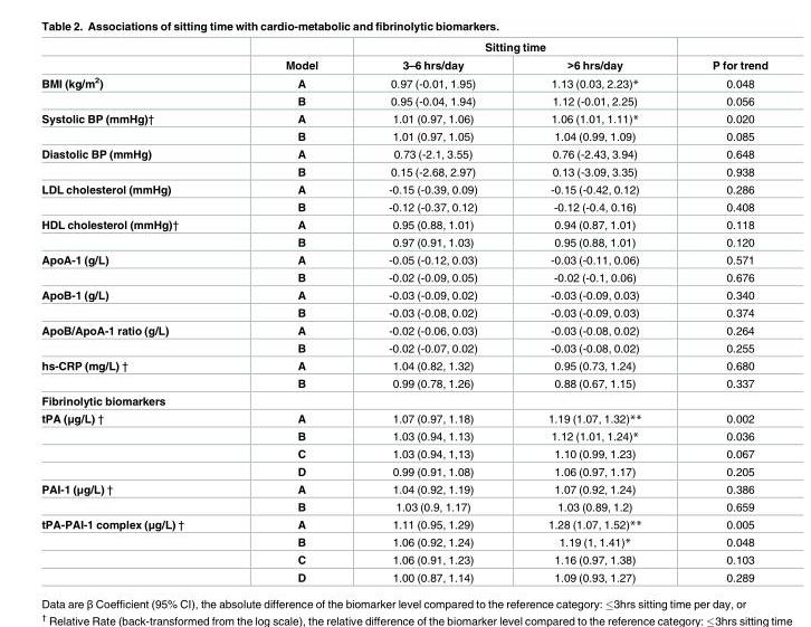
<table><thead><tr><td rowspan="2"></td><td rowspan="2">Model</td><td colspan="2">Sitting time</td><td rowspan="2">P for trend</td></tr><tr><td>3–6 hrs/day</td><td>&gt;6 hrs/day</td></tr></thead><tbody><tr><td rowspan="2">BMI (kg/m<sup>2</sup>)</td><td>A</td><td>0.97 (-0.01, 1.95)</td><td>1.13 (0.03, 2.23)*</td><td>0.048</td></tr><tr><td>B</td><td>0.95 (-0.04, 1.94)</td><td>1.12 (-0.01, 2.25)</td><td>0.056</td></tr><tr><td rowspan="2">Systolic BP (mmHg)†</td><td>A</td><td>1.01 (0.97, 1.06)</td><td>1.06 (1.01, 1.11)*</td><td>0.020</td></tr><tr><td>B</td><td>1.01 (0.97, 1.05)</td><td>1.04 (0.99, 1.09)</td><td>0.085</td></tr><tr><td rowspan="2">Diastolic BP (mmHg)</td><td>A</td><td>0.73 (-2.1, 3.55)</td><td>0.76 (-2.43, 3.94)</td><td>0.648</td></tr><tr><td>B</td><td>0.15 (-2.68, 2.97)</td><td>0.13 (-3.09, 3.35)</td><td>0.938</td></tr><tr><td rowspan="2">LDL cholesterol (mmHg)</td><td>A</td><td>-0.15 (-0.39, 0.09)</td><td>-0.15 (-0.42, 0.12)</td><td>0.286</td></tr><tr><td>B</td><td>-0.12 (-0.37, 0.12)</td><td>-0.12 (-0.4, 0.16)</td><td>0.408</td></tr><tr><td rowspan="2">HDL cholesterol (mmHg)†</td><td>A</td><td>0.95 (0.88, 1.01)</td><td>0.94 (0.87, 1.01)</td><td>0.118</td></tr><tr><td>B</td><td>0.97 (0.91, 1.03)</td><td>0.95 (0.88, 1.01)</td><td>0.120</td></tr><tr><td rowspan="2">ApoA-1 (g/L)</td><td>A</td><td>-0.05 (-0.12, 0.03)</td><td>-0.03 (-0.11, 0.06)</td><td>0.571</td></tr><tr><td>B</td><td>-0.02 (-0.09, 0.05)</td><td>-0.02 (-0.1, 0.06)</td><td>0.676</td></tr><tr><td rowspan="2">ApoB-1 (g/L)</td><td>A</td><td>-0.03 (-0.09, 0.02)</td><td>-0.03 (-0.09, 0.03)</td><td>0.340</td></tr><tr><td>B</td><td>-0.03 (-0.08, 0.02)</td><td>-0.03 (-0.09, 0.03)</td><td>0.374</td></tr><tr><td rowspan="2">ApoB/ApoA-1 ratio (g/L)</td><td>A</td><td>-0.02 (-0.06, 0.03)</td><td>-0.03 (-0.08, 0.02)</td><td>0.264</td></tr><tr><td>B</td><td>-0.02 (-0.07, 0.02)</td><td>-0.03 (-0.08, 0.02)</td><td>0.255</td></tr><tr><td rowspan="2">hs-CRP (mg/L) †</td><td>A</td><td>1.04 (0.82, 1.32)</td><td>0.95 (0.73, 1.24)</td><td>0.680</td></tr><tr><td>B</td><td>0.99 (0.78, 1.26)</td><td>0.88 (0.67, 1.15)</td><td>0.337</td></tr><tr><td colspan="5">Fibrinolytic biomarkers</td></tr><tr><td rowspan="4">tPA (μg/L) †</td><td>A</td><td>1.07 (0.97, 1.18)</td><td>1.19 (1.07, 1.32)**</td><td>0.002</td></tr><tr><td>B</td><td>1.03 (0.94, 1.13)</td><td>1.12 (1.01, 1.24)*</td><td>0.036</td></tr><tr><td>C</td><td>1.03 (0.94, 1,13)</td><td>1.10 (0.99, 1.23)</td><td>0.067</td></tr><tr><td>D</td><td>0.99 (0.91, 1.08)</td><td>1.06 (0.97, 1.17)</td><td>0.205</td></tr><tr><td rowspan="2">PAI-1 (μg/L) †</td><td>A</td><td>1.04 (0.92, 1.19)</td><td>1.07 (0.92, 1.24)</td><td>0.386</td></tr><tr><td>B</td><td>1.03 (0.9, 1.17)</td><td>1.03 (0.89, 1.2)</td><td>0.659</td></tr><tr><td rowspan="4">tPA-PAI-1 complex (μg/L) †</td><td>A</td><td>1.11 (0.95, 1.29)</td><td>1.28 (1.07, 1.52)**</td><td>0.005</td></tr><tr><td>B</td><td>1.06 (0.92, 1.24)</td><td>1.19 (1, 1.41)*</td><td>0.048</td></tr><tr><td>C</td><td>1.06 (0.91, 1.23)</td><td>1.16 (0.97, 1.38)</td><td>0.103</td></tr><tr><td>D</td><td>1.00 (0.87, 1.14)</td><td>1.09 (0.93, 1.27)</td><td>0.289</td></tr></tbody></table>